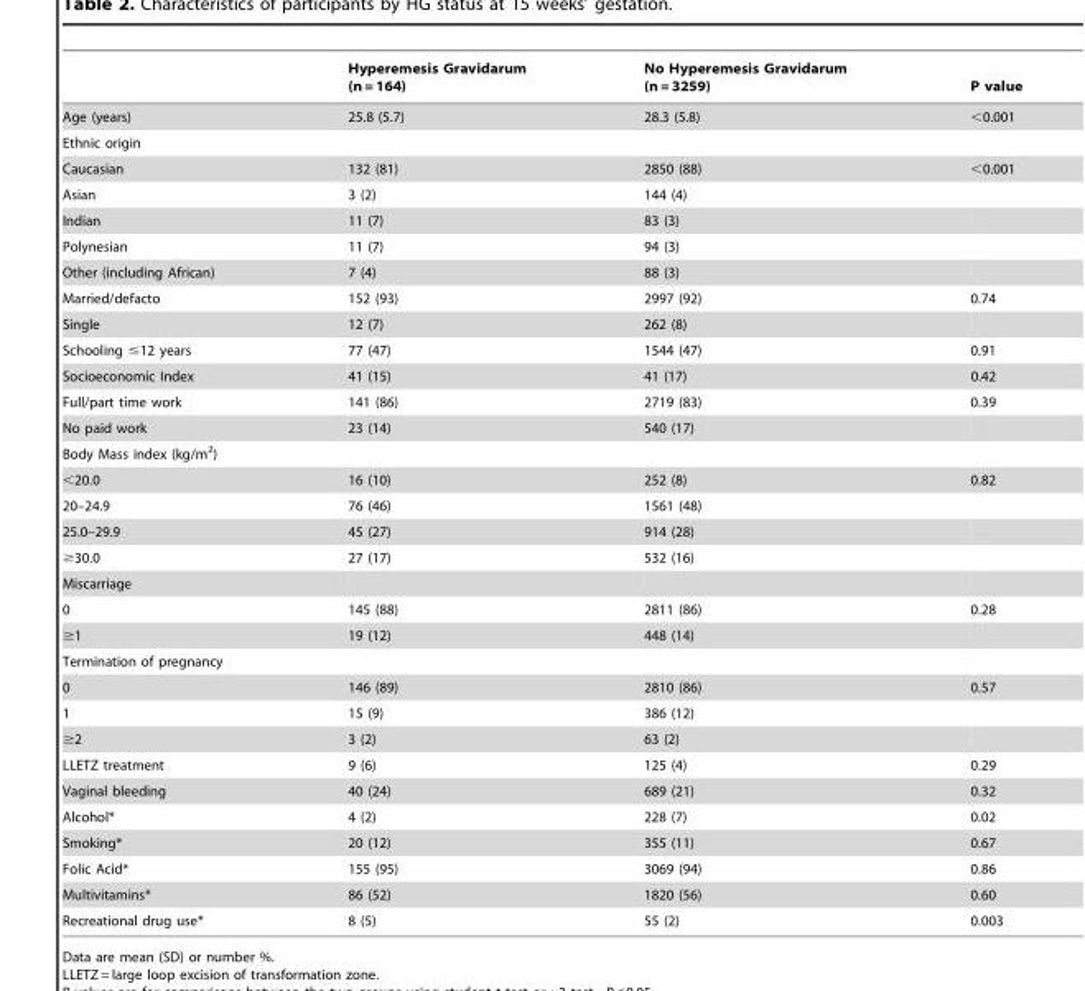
<table><thead><tr><td></td><td>Hyperemesis Gravidarum (n = 164)</td><td>No Hyperemesis Gravidarum (n = 3259)</td><td>P value</td></tr></thead><tbody><tr><td>Age (years)</td><td>25.8 (5.7)</td><td>28.3 (5.8)</td><td>&lt;0.001</td></tr><tr><td colspan="4">Ethnic origin</td></tr><tr><td>Caucasian</td><td>132 (81)</td><td>2850 (88)</td><td>&lt;0.001</td></tr><tr><td>Asian</td><td>3 (2)</td><td>144 (4)</td><td></td></tr><tr><td>Indian</td><td>11 (7)</td><td>83 (3)</td><td></td></tr><tr><td>Polynesian</td><td>11 (7)</td><td>94 (3)</td><td></td></tr><tr><td>Other (including African)</td><td>7 (4)</td><td>88 (3)</td><td></td></tr><tr><td>Married/defacto</td><td>152 (93)</td><td>2997 (92)</td><td>0.74</td></tr><tr><td>Single</td><td>12 (7)</td><td>262 (8)</td><td></td></tr><tr><td>Schooling ≤12 years</td><td>77 (47)</td><td>1544 (47)</td><td>0.91</td></tr><tr><td>Socioeconomic Index</td><td>41 (15)</td><td>41 (17)</td><td>0.42</td></tr><tr><td>Full/part time work</td><td>141 (86)</td><td>2719 (83)</td><td>0.39</td></tr><tr><td>No paid work</td><td>23 (14)</td><td>540 (17)</td><td></td></tr><tr><td colspan="4">Body Mass index (kg/m<sup>2</sup>)</td></tr><tr><td>&lt;20.0</td><td>16 (10)</td><td>252 (8)</td><td>0.82</td></tr><tr><td>20–24.9</td><td>76 (46)</td><td>1561 (48)</td><td></td></tr><tr><td>25.0–29.9</td><td>45 (27)</td><td>914 (28)</td><td></td></tr><tr><td>≥30.0</td><td>27 (17)</td><td>532 (16)</td><td></td></tr><tr><td colspan="4">Miscarriage</td></tr><tr><td>0</td><td>145 (88)</td><td>2811 (86)</td><td>0.28</td></tr><tr><td>≥1</td><td>19 (12)</td><td>448 (14)</td><td></td></tr><tr><td colspan="4">Termination of pregnancy</td></tr><tr><td>0</td><td>146 (89)</td><td>2810 (86)</td><td>0.57</td></tr><tr><td>1</td><td>15 (9)</td><td>386 (12)</td><td></td></tr><tr><td>≥2</td><td>3 (2)</td><td>63 (2)</td><td></td></tr><tr><td>LLETZ treatment</td><td>9 (6)</td><td>125 (4)</td><td>0.29</td></tr><tr><td>Vaginal bleeding</td><td>40 (24)</td><td>689 (21)</td><td>0.32</td></tr><tr><td>Alcohol*</td><td>4 (2)</td><td>228 (7)</td><td>0.02</td></tr><tr><td>Smoking*</td><td>20 (12)</td><td>355 (11)</td><td>0.67</td></tr><tr><td>Folic Acid*</td><td>155 (95)</td><td>3069 (94)</td><td>0.86</td></tr><tr><td>Multivitamins*</td><td>86 (52)</td><td>1820 (56)</td><td>0.60</td></tr><tr><td>Recreational drug use*</td><td>8 (5)</td><td>55 (2)</td><td>0.003</td></tr></tbody></table>